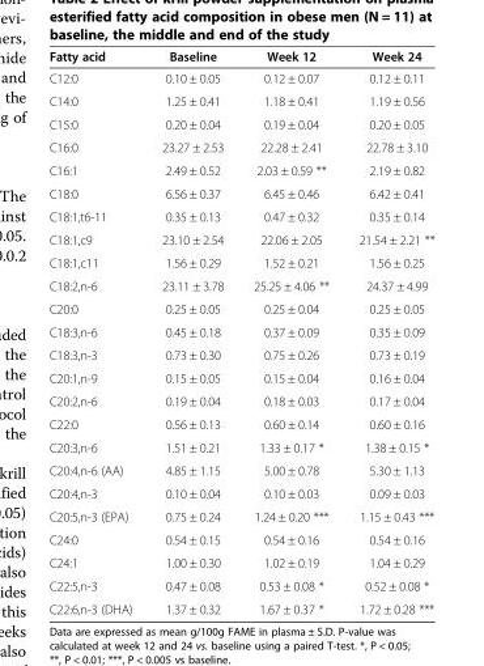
<table><thead><tr><td>Fatty acid</td><td>Baseline</td><td>Week 12</td><td>Week 24</td></tr></thead><tbody><tr><td>C12:0</td><td>0.10 ± 0.05</td><td>0.12 ± 0.07</td><td>0.12 ± 0.11</td></tr><tr><td>C14:0</td><td>1.25 ± 0.41</td><td>1.18 ± 0.41</td><td>1.19 ± 0.56</td></tr><tr><td>C15:0</td><td>0.20 ± 0.04</td><td>0.19 ± 0.04</td><td>0.20 ± 0.05</td></tr><tr><td>C16:0</td><td>23.27 ± 2.53</td><td>22.28 ± 2.41</td><td>22.78 ± 3.10</td></tr><tr><td>C16:1</td><td>2.49 ± 0.52</td><td>2.03 ± 0.59 **</td><td>2.19 ± 0.82</td></tr><tr><td>C18:0</td><td>6.56 ± 0.37</td><td>6.45 ± 0.46</td><td>6.42 ± 0.41</td></tr><tr><td>C18:1,t6-11</td><td>0.35 ± 0.13</td><td>0.47 ± 0.32</td><td>0.35 ± 0.14</td></tr><tr><td>C18:1,c9</td><td>23.10 ± 2.54</td><td>22.06 ± 2.05</td><td>21.54 ± 2.21 **</td></tr><tr><td>C18:1,c11</td><td>1.56 ± 0.29</td><td>1.52 ± 0.21</td><td>1.56 ± 0.25</td></tr><tr><td>C18:2,n-6</td><td>23.11 ± 3.78</td><td>25.25 ± 4.06 **</td><td>24.37 ± 4.99</td></tr><tr><td>C20:0</td><td>0.25 ± 0.05</td><td>0.25 ± 0.04</td><td>0.25 ± 0.05</td></tr><tr><td>C18:3,n-6</td><td>0.45 ± 0.18</td><td>0.37 ± 0.09</td><td>0.35 ± 0.09</td></tr><tr><td>C18:3,n-3</td><td>0.73 ± 0.30</td><td>0.75 ± 0.26</td><td>0.73 ± 0.19</td></tr><tr><td>C20:1,n-9</td><td>0.15 ± 0.05</td><td>0.15 ± 0.04</td><td>0.16 ± 0.04</td></tr><tr><td>C20:2,n-6</td><td>0.19 ± 0.04</td><td>0.18 ± 0.03</td><td>0.17 ± 0.04</td></tr><tr><td>C22:0</td><td>0.56 ± 0.13</td><td>0.60 ± 0.14</td><td>0.60 ± 0.16</td></tr><tr><td>C20:3,n-6</td><td>1.51 ± 0.21</td><td>1.33 ± 0.17 *</td><td>1.38 ± 0.15 *</td></tr><tr><td>C20:4,n-6 (AA)</td><td>4.85 ± 1.15</td><td>5.00 ± 0.78</td><td>5.30 ± 1.13</td></tr><tr><td>C20:4,n-3</td><td>0.10 ± 0.04</td><td>0.10 ± 0.03</td><td>0.09 ± 0.03</td></tr><tr><td>C20:5,n-3 (EPA)</td><td>0.75 ± 0.24</td><td>1.24 ± 0.20 ***</td><td>1.15 ± 0.43 ***</td></tr><tr><td>C24:0</td><td>0.54 ± 0.15</td><td>0.54 ± 0.16</td><td>0.54 ± 0.16</td></tr><tr><td>C24:1</td><td>1.00 ± 0.30</td><td>1.02 ± 0.19</td><td>1.04 ± 0.29</td></tr><tr><td>C22:5,n-3</td><td>0.47 ± 0.08</td><td>0.53 ± 0.08 *</td><td>0.52 ± 0.08 *</td></tr><tr><td>C22:6,n-3 (DHA)</td><td>1.37 ± 0.32</td><td>1.67 ± 0.37 *</td><td>1.72 ± 0.28 ***</td></tr></tbody></table>